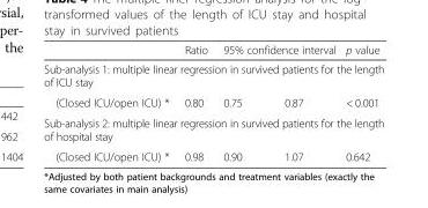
<table><thead><tr><td></td><td>Ratio</td><td colspan="2">95% confidence interval</td><td>p value</td></tr><tr><td colspan="5">Sub-analysis 1: multiple linear regression in survived patients for the length of ICU stay</td></tr><tr><td>(Closed ICU/open ICU) *</td><td>0.80</td><td>0.75</td><td>0.87</td><td>&lt; 0.001</td></tr></thead><tbody><tr><td colspan="5">Sub-analysis 2: multiple linear regression in survived patients for the length of hospital stay</td></tr><tr><td>(Closed ICU/open ICU) *</td><td>0.98</td><td>0.90</td><td>1.07</td><td>0.642</td></tr></tbody></table>